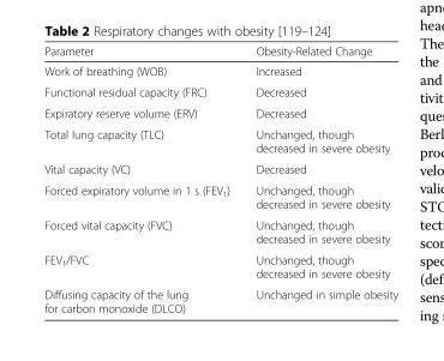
<table><thead><tr><td>Parameter</td><td>Obesity-Related Change</td></tr></thead><tbody><tr><td>Work of breathing (WOB)</td><td>Increased</td></tr><tr><td>Functional residual capacity (FRC)</td><td>Decreased</td></tr><tr><td>Expiratory reserve volume (ERV)</td><td>Decreased</td></tr><tr><td>Total lung capacity (TLC)</td><td>Unchanged, though decreased in severe obesity</td></tr><tr><td>Vital capacity (VC)</td><td>Decreased</td></tr><tr><td>Forced expiratory volume in 1 s (FEV<sub>1</sub>)</td><td>Unchanged, though decreased in severe obesity</td></tr><tr><td>Forced vital capacity (FVC)</td><td>Unchanged, though decreased in severe obesity</td></tr><tr><td>FEV<sub>1</sub>/FVC</td><td>Unchanged, though decreased in severe obesity</td></tr><tr><td>Diffusing capacity of the lung for carbon monoxide (DLCO)</td><td>Unchanged in simple obesity</td></tr></tbody></table>